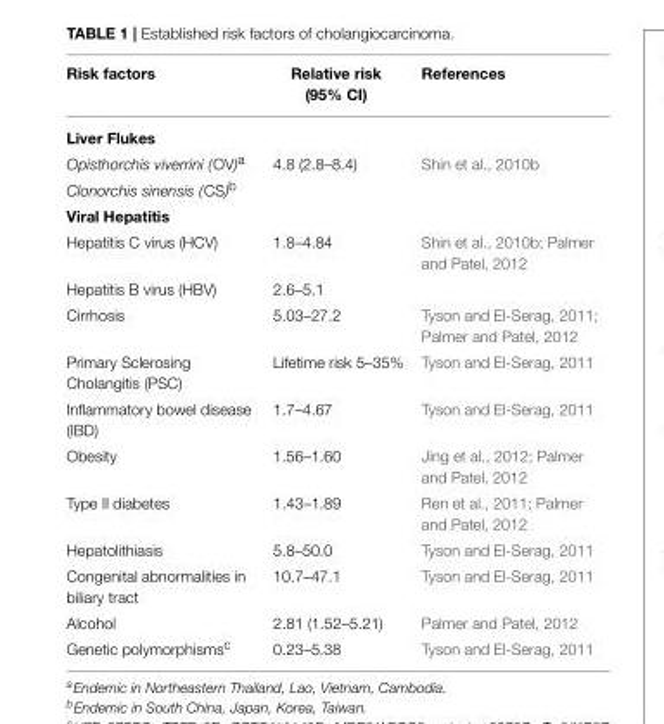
<table><thead><tr><td>Risk factors</td><td>Relative risk (95% CI)</td><td>References</td></tr></thead><tbody><tr><td colspan="3">Liver Flukes</td></tr><tr><td>Opisthorchis viverrini (OV)<sup>a</sup></td><td>4.8 (2.8–8.4)</td><td>Shin et al., 2010b</td></tr><tr><td colspan="3">Clonorchis sinensis (CS)<sup>b</sup></td></tr><tr><td colspan="3">Viral Hepatitis</td></tr><tr><td>Hepatitis C virus (HCV)</td><td>1.8–4.84</td><td>Shin et al., 2010b; Palmer and Patel, 2012</td></tr><tr><td>Hepatitis B virus (HBV)</td><td>2.6–5.1</td><td></td></tr><tr><td>Cirrhosis</td><td>5.03–27.2</td><td>Tyson and El-Serag, 2011; Palmer and Patel, 2012</td></tr><tr><td>Primary Sclerosing Cholangitis (PSC)</td><td>Lifetime risk 5–35%</td><td>Tyson and El-Serag, 2011</td></tr><tr><td>Inflammatory bowel disease (IBD)</td><td>1.7–4.67</td><td>Tyson and El-Serag, 2011</td></tr><tr><td>Obesity</td><td>1.56–1.60</td><td>Jing et al., 2012; Palmer and Patel, 2012</td></tr><tr><td>Type II diabetes</td><td>1.43–1.89</td><td>Ren et al., 2011; Palmer and Patel, 2012</td></tr><tr><td>Hepatolithiasis</td><td>5.8–50.0</td><td>Tyson and El-Serag, 2011</td></tr><tr><td>Congenital abnormalities in biliary tract</td><td>10.7–47.1</td><td>Tyson and El-Serag, 2011</td></tr><tr><td>Alcohol</td><td>2.81 (1.52–5.21)</td><td>Palmer and Patel, 2012</td></tr><tr><td>Genetic polymorphisms<sup>c</sup></td><td>0.23–5.38</td><td>Tyson and El-Serag, 2011</td></tr></tbody></table>